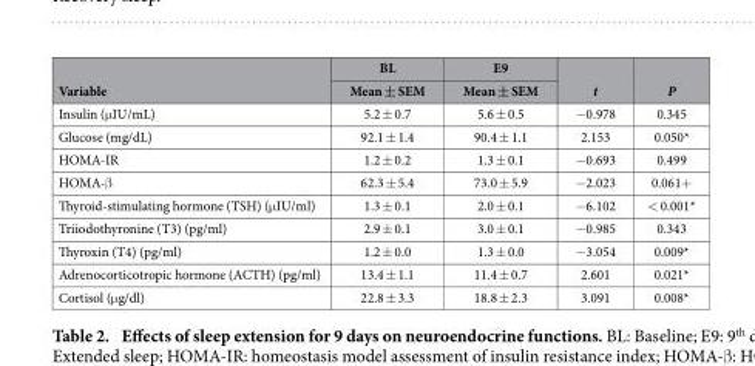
<table><thead><tr><td rowspan="2">Variable</td><td rowspan="2">BL Mean ± SEM</td><td rowspan="2">E9 Mean ± SEM</td><td rowspan="2">t</td><td rowspan="2">P</td></tr><tr></tr></thead><tbody><tr><td>Insulin (μ IU/mL)</td><td>5.2 ± 0.7</td><td>5.6 ± 0.5</td><td>− 0.978</td><td>0.345</td></tr><tr><td>Glucose (mg/dL)</td><td>92.1 ± 1.4</td><td>90.4 ± 1.1</td><td>2.153</td><td>0.050*</td></tr><tr><td>HOMA-IR</td><td>1.2 ± 0.2</td><td>1.3 ± 0.1</td><td>− 0.693</td><td>0.499</td></tr><tr><td>HOMA-β</td><td>62.3 ± 5.4</td><td>73.0 ± 5.9</td><td>− 2.023</td><td>0.061+</td></tr><tr><td>Thyroid-stimulating hormone (TSH) (μ IU/ml)</td><td>1.3 ± 0.1</td><td>2.0 ± 0.1</td><td>− 6.102</td><td>&lt; 0.001*</td></tr><tr><td>Triiodothyronine (T3) (pg/ml)</td><td>2.9 ± 0.1</td><td>3.0 ± 0.1</td><td>− 0.985</td><td>0.343</td></tr><tr><td>Thyroxin (T4) (pg/ml)</td><td>1.2 ± 0.0</td><td>1.3 ± 0.0</td><td>− 3.054</td><td>0.009*</td></tr><tr><td>Adrenocorticotropic hormone (ACTH) (pg/ml)</td><td>13.4 ± 1.1</td><td>11.4 ± 0.7</td><td>2.601</td><td>0.021*</td></tr><tr><td>Cortisol (μ g/dl)</td><td>22.8 ± 3.3</td><td>18.8 ± 2.3</td><td>3.091</td><td>0.008*</td></tr></tbody></table>